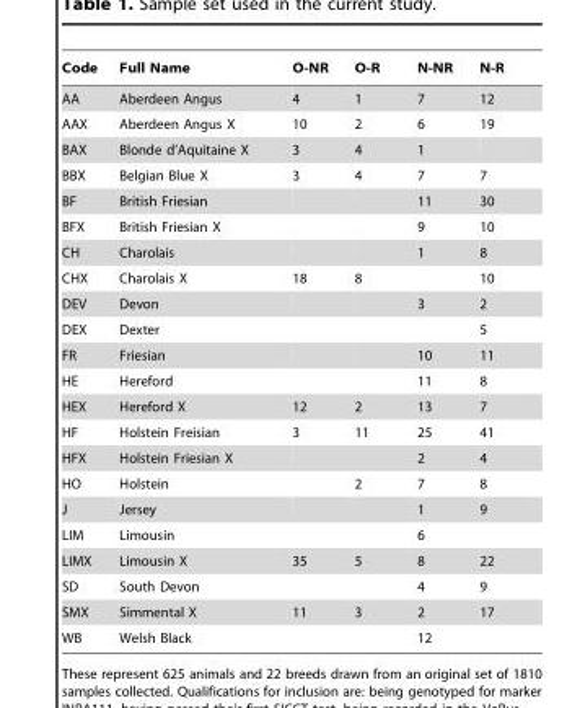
<table><thead><tr><td>Code</td><td>Full Name</td><td>O-NR</td><td>O-R</td><td>N-NR</td><td>N-R</td></tr></thead><tbody><tr><td>AA</td><td>Aberdeen Angus</td><td>4</td><td>1</td><td>7</td><td>12</td></tr><tr><td>AAX</td><td>Aberdeen Angus X</td><td>10</td><td>2</td><td>6</td><td>19</td></tr><tr><td>BAX</td><td>Blonde d’Aquitaine X</td><td>3</td><td>4</td><td>1</td><td></td></tr><tr><td>BBX</td><td>Belgian Blue X</td><td>3</td><td>4</td><td>7</td><td>7</td></tr><tr><td>BF</td><td>British Friesian</td><td></td><td></td><td>11</td><td>30</td></tr><tr><td>BFX</td><td>British Friesian X</td><td></td><td></td><td>9</td><td>10</td></tr><tr><td>CH</td><td>Charolais</td><td></td><td></td><td>1</td><td>8</td></tr><tr><td>CHX</td><td>Charolais X</td><td>18</td><td>8</td><td></td><td>10</td></tr><tr><td>DEV</td><td>Devon</td><td></td><td></td><td>3</td><td>2</td></tr><tr><td>DEX</td><td>Dexter</td><td></td><td></td><td></td><td>5</td></tr><tr><td>FR</td><td>Friesian</td><td></td><td></td><td>10</td><td>11</td></tr><tr><td>HE</td><td>Hereford</td><td></td><td></td><td>11</td><td>8</td></tr><tr><td>HEX</td><td>Hereford X</td><td>12</td><td>2</td><td>13</td><td>7</td></tr><tr><td>HF</td><td>Holstein Freisian</td><td>3</td><td>11</td><td>25</td><td>41</td></tr><tr><td>HFX</td><td>Holstein Friesian X</td><td></td><td></td><td>2</td><td>4</td></tr><tr><td>HO</td><td>Holstein</td><td></td><td>2</td><td>7</td><td>8</td></tr><tr><td>J</td><td>Jersey</td><td></td><td></td><td>1</td><td>9</td></tr><tr><td>LIM</td><td>Limousin</td><td></td><td></td><td>6</td><td></td></tr><tr><td>LIMX</td><td>Limousin X</td><td>35</td><td>5</td><td>8</td><td>22</td></tr><tr><td>SD</td><td>South Devon</td><td></td><td></td><td>4</td><td>9</td></tr><tr><td>SMX</td><td>Simmental X</td><td>11</td><td>3</td><td>2</td><td>17</td></tr><tr><td>WB</td><td>Welsh Black</td><td></td><td></td><td>12</td><td></td></tr></tbody></table>